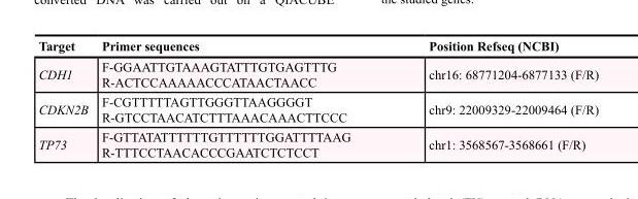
<table><thead><tr><td>Target</td><td>Primer sequences</td><td>Position Refseq (NCBI)</td></tr></thead><tbody><tr><td>CDH1</td><td>F-GGAATTGTAAAGTATTTGTGAGTTTG R-ACTCCAAAAACCCATAACTAACC</td><td>chr16: 68771204-6877133 (F/R)</td></tr><tr><td>CDKN2B</td><td>F-CGTTTTTAGTTGGGTTAAGGGGT R-GTCCTAACATCTTTAAACAAACTTCCC</td><td>chr9: 22009329-22009464 (F/R)</td></tr><tr><td>TP73</td><td>F-GTTATATTTTTTGTTTTTTGGATTTTAAG R-TTTCCTAACACCCGAATCTCTCCT</td><td>chr1: 3568567-3568661 (F/R)</td></tr></tbody></table>